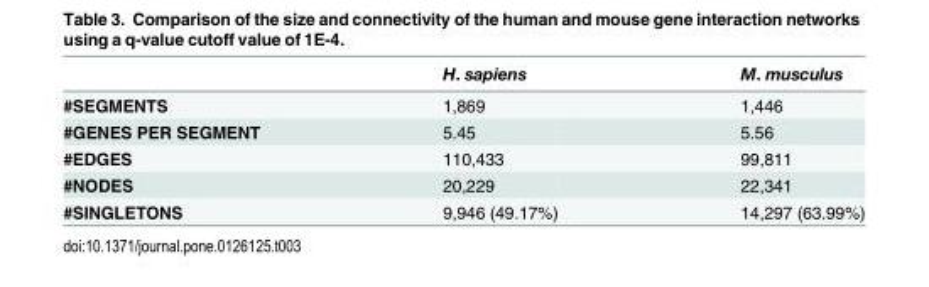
<table><thead><tr><td></td><td>H. sapiens</td><td>M. musculus</td></tr></thead><tbody><tr><td>#SEGMENTS</td><td>1,869</td><td>1,446</td></tr><tr><td>#GENES PER SEGMENT</td><td>5.45</td><td>5.56</td></tr><tr><td>#EDGES</td><td>110,433</td><td>99,811</td></tr><tr><td>#NODES</td><td>20,229</td><td>22,341</td></tr><tr><td>#SINGLETONS</td><td>9,946 (49.17%)</td><td>14,297 (63.99%)</td></tr></tbody></table>